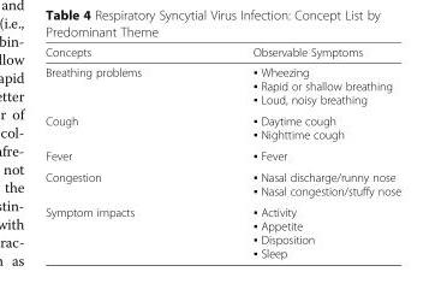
<table><thead><tr><td>Concepts</td><td>Observable Symptoms</td></tr></thead><tbody><tr><td>Breathing problems</td><td>▪ Wheezing ▪ Rapid or shallow breathing ▪ Loud, noisy breathing</td></tr><tr><td>Cough</td><td>▪ Daytime cough ▪ Nighttime cough</td></tr><tr><td>Fever</td><td>▪ Fever</td></tr><tr><td>Congestion</td><td>▪ Nasal discharge/runny nose ▪ Nasal congestion/stuffy nose</td></tr><tr><td>Symptom impacts</td><td>▪ Activity ▪ Appetite ▪ Disposition ▪ Sleep</td></tr></tbody></table>